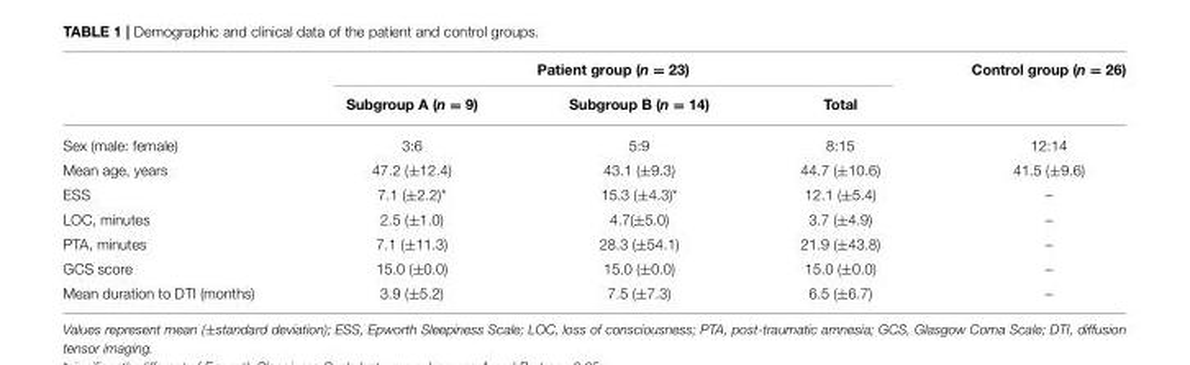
<table><thead><tr><td rowspan="2"></td><td colspan="3">Patient group (n = 23)</td><td rowspan="2">Control group (n = 26)</td></tr><tr><td>Subgroup A (n = 9)</td><td>Subgroup B (n = 14)</td><td>Total</td></tr></thead><tbody><tr><td>Sex (male: female)</td><td>3:6</td><td>5:9</td><td>8:15</td><td>12:14</td></tr><tr><td>Mean age, years</td><td>47.2 (±12.4)</td><td>43.1 (±9.3)</td><td>44.7 (±10.6)</td><td>41.5 (±9.6)</td></tr><tr><td>ESS</td><td>7.1 (±2.2)*</td><td>15.3 (±4.3)*</td><td>12.1 (±5.4)</td><td>–</td></tr><tr><td>LOC, minutes</td><td>2.5 (±1.0)</td><td>4.7(±5.0)</td><td>3.7 (±4.9)</td><td>–</td></tr><tr><td>PTA, minutes</td><td>7.1 (±11.3)</td><td>28.3 (±54.1)</td><td>21.9 (±43.8)</td><td>–</td></tr><tr><td>GCS score</td><td>15.0 (±0.0)</td><td>15.0 (±0.0)</td><td>15.0 (±0.0)</td><td>–</td></tr><tr><td>Mean duration to DTI (months)</td><td>3.9 (±5.2)</td><td>7.5 (±7.3)</td><td>6.5 (±6.7)</td><td>–</td></tr></tbody></table>